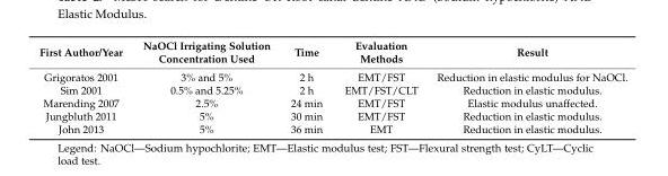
<table><thead><tr><td>First Author/Year</td><td>NaOCl Irrigating Solution Concentration Used</td><td>Time</td><td>Evaluation Methods</td><td>Result</td></tr></thead><tbody><tr><td>Grigoratos 2001</td><td>3% and 5%</td><td>2 h</td><td>EMT/FST</td><td>Reduction in elastic modulus for NaOCl.</td></tr><tr><td>Sim 2001</td><td>0.5% and 5.25%</td><td>2 h</td><td>EMT/FST/CLT</td><td>Reduction in elastic modulus.</td></tr><tr><td>Marending 2007</td><td>2.5%</td><td>24 min</td><td>EMT/FST</td><td>Elastic modulus unaffected.</td></tr><tr><td>Jungbluth 2011</td><td>5%</td><td>30 min</td><td>EMT/FST</td><td>Reduction in elastic modulus.</td></tr><tr><td>John 2013</td><td>5%</td><td>36 min</td><td>EMT</td><td>Reduction in elastic modulus.</td></tr></tbody></table>